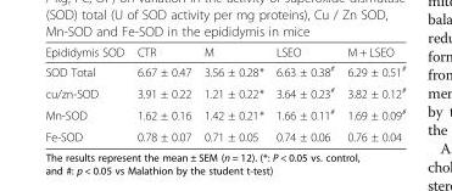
<table><thead><tr><td>Epididymis SOD</td><td>CTR</td><td>M</td><td>LSEO</td><td>M + LSEO</td></tr></thead><tbody><tr><td>SOD Total</td><td>6.67 ± 0.47</td><td>3.56 ± 0.28*</td><td>6.63 ± 0.38<sup>#</sup></td><td>6.29 ± 0.51<sup>#</sup></td></tr><tr><td>cu/zn-SOD</td><td>3.91 ± 0.22</td><td>1.21 ± 0.22*</td><td>3.64 ± 0.23<sup>#</sup></td><td>3.82 ± 0.12<sup>#</sup></td></tr><tr><td>Mn-SOD</td><td>1.62 ± 0.16</td><td>1.42 ± 0.21*</td><td>1.66 ± 0.11<sup>#</sup></td><td>1.69 ± 0.09<sup>#</sup></td></tr><tr><td>Fe-SOD</td><td>0.78 ± 0.07</td><td>0.71 ± 0.05</td><td>0.74 ± 0.06</td><td>0.76 ± 0.04</td></tr></tbody></table>